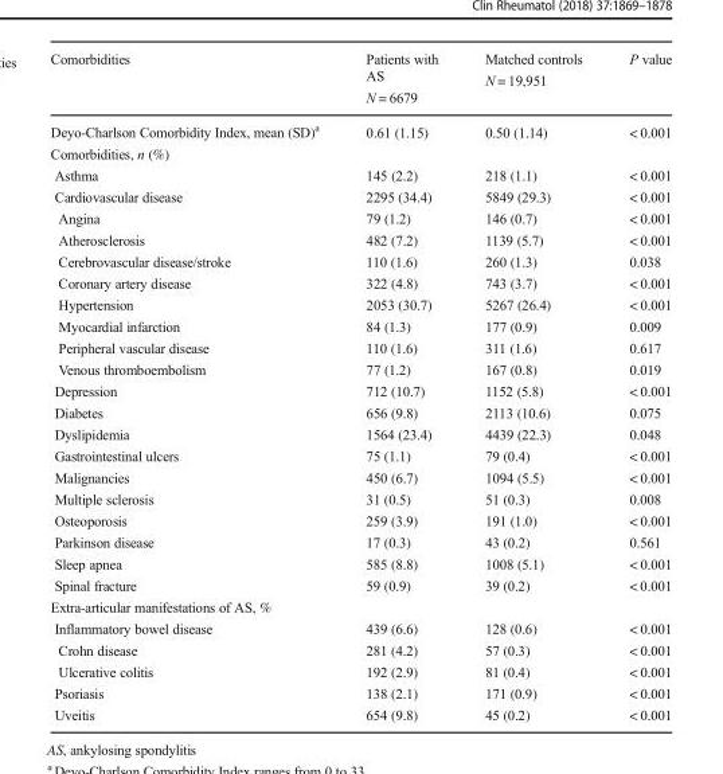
<table><thead><tr><td>Comorbidities</td><td>Patients with AS N = 6679</td><td>Matched controls N = 19,951</td><td>P value</td></tr></thead><tbody><tr><td>Deyo-Charlson Comorbidity Index, mean (SD)<sup>a</sup></td><td>0.61 (1.15)</td><td>0.50 (1.14)</td><td>&lt; 0.001</td></tr><tr><td colspan="4">Comorbidities, n (%)</td></tr><tr><td>Asthma</td><td>145 (2.2)</td><td>218 (1.1)</td><td>&lt; 0.001</td></tr><tr><td>Cardiovascular disease</td><td>2295 (34.4)</td><td>5849 (29.3)</td><td>&lt; 0.001</td></tr><tr><td>Angina</td><td>79 (1.2)</td><td>146 (0.7)</td><td>&lt; 0.001</td></tr><tr><td>Atherosclerosis</td><td>482 (7.2)</td><td>1139 (5.7)</td><td>&lt; 0.001</td></tr><tr><td>Cerebrovascular disease/stroke</td><td>110 (1.6)</td><td>260 (1.3)</td><td>0.038</td></tr><tr><td>Coronary artery disease</td><td>322 (4.8)</td><td>743 (3.7)</td><td>&lt; 0.001</td></tr><tr><td>Hypertension</td><td>2053 (30.7)</td><td>5267 (26.4)</td><td>&lt; 0.001</td></tr><tr><td>Myocardial infarction</td><td>84 (1.3)</td><td>177 (0.9)</td><td>0.009</td></tr><tr><td>Peripheral vascular disease</td><td>110 (1.6)</td><td>311 (1.6)</td><td>0.617</td></tr><tr><td>Venous thromboembolism</td><td>77 (1.2)</td><td>167 (0.8)</td><td>0.019</td></tr><tr><td>Depression</td><td>712 (10.7)</td><td>1152 (5.8)</td><td>&lt; 0.001</td></tr><tr><td>Diabetes</td><td>656 (9.8)</td><td>2113 (10.6)</td><td>0.075</td></tr><tr><td>Dyslipidemia</td><td>1564 (23.4)</td><td>4439 (22.3)</td><td>0.048</td></tr><tr><td>Gastrointestinal ulcers</td><td>75 (1.1)</td><td>79 (0.4)</td><td>&lt; 0.001</td></tr><tr><td>Malignancies</td><td>450 (6.7)</td><td>1094 (5.5)</td><td>&lt; 0.001</td></tr><tr><td>Multiple sclerosis</td><td>31 (0.5)</td><td>51 (0.3)</td><td>0.008</td></tr><tr><td>Osteoporosis</td><td>259 (3.9)</td><td>191 (1.0)</td><td>&lt; 0.001</td></tr><tr><td>Parkinson disease</td><td>17 (0.3)</td><td>43 (0.2)</td><td>0.561</td></tr><tr><td>Sleep apnea</td><td>585 (8.8)</td><td>1008 (5.1)</td><td>&lt; 0.001</td></tr><tr><td>Spinal fracture</td><td>59 (0.9)</td><td>39 (0.2)</td><td>&lt; 0.001</td></tr><tr><td colspan="4">Extra-articular manifestations of AS, %</td></tr><tr><td>Inflammatory bowel disease</td><td>439 (6.6)</td><td>128 (0.6)</td><td>&lt; 0.001</td></tr><tr><td>Crohn disease</td><td>281 (4.2)</td><td>57 (0.3)</td><td>&lt; 0.001</td></tr><tr><td>Ulcerative colitis</td><td>192 (2.9)</td><td>81 (0.4)</td><td>&lt; 0.001</td></tr><tr><td>Psoriasis</td><td>138 (2.1)</td><td>171 (0.9)</td><td>&lt; 0.001</td></tr><tr><td>Uveitis</td><td>654 (9.8)</td><td>45 (0.2)</td><td>&lt; 0.001</td></tr></tbody></table>